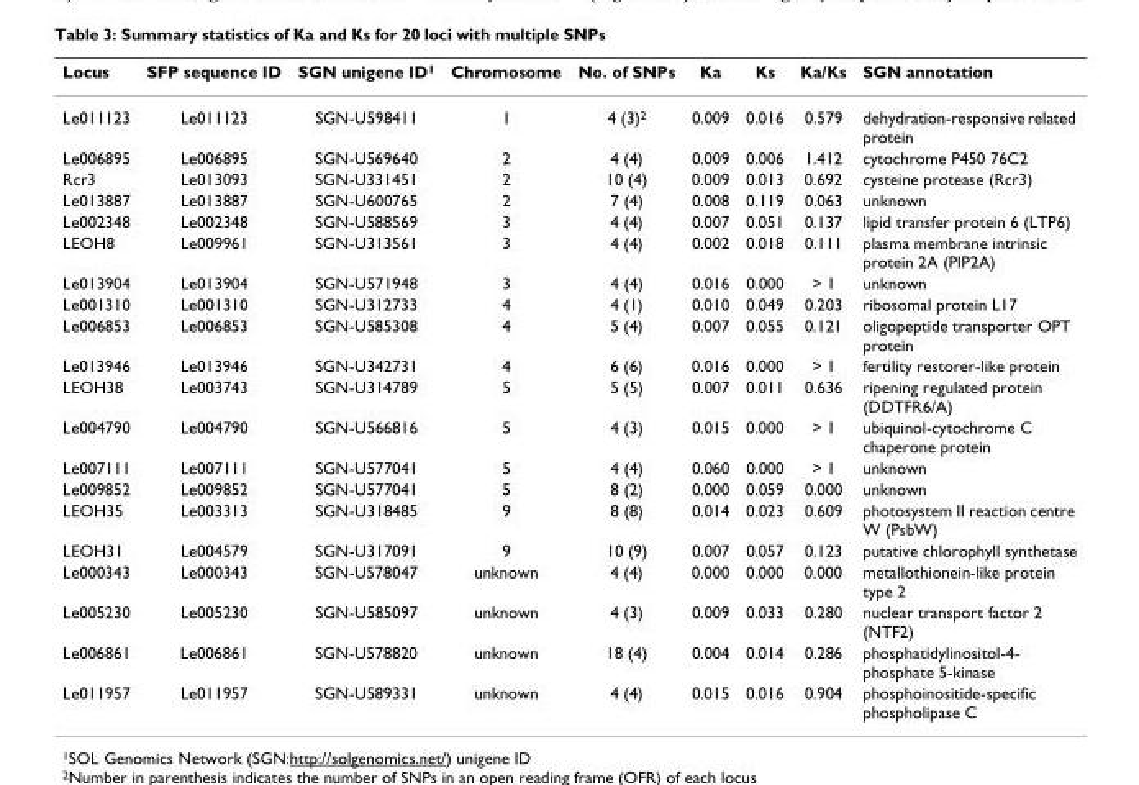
<table><thead><tr><td>Locus</td><td>SFP sequence ID</td><td>SGN unigene ID<sup>1</sup></td><td>Chromosome</td><td>No. of SNPs</td><td>Ka</td><td>Ks</td><td>Ka/Ks</td><td>SGN annotation</td></tr></thead><tbody><tr><td>Le011123</td><td>Le011123</td><td>SGN-U598411</td><td>1</td><td>4 (3)<sup>2</sup></td><td>0.009</td><td>0.016</td><td>0.579</td><td>dehydration-responsive related protein</td></tr><tr><td>Le006895</td><td>Le006895</td><td>SGN-U569640</td><td>2</td><td>4 (4)</td><td>0.009</td><td>0.006</td><td>1.412</td><td>cytochrome P450 76C2</td></tr><tr><td>Rcr3</td><td>Le013093</td><td>SGN-U331451</td><td>2</td><td>10 (4)</td><td>0.009</td><td>0.013</td><td>0.692</td><td>cysteine protease (Rcr3)</td></tr><tr><td>Le013887</td><td>Le013887</td><td>SGN-U600765</td><td>2</td><td>7 (4)</td><td>0.008</td><td>0.119</td><td>0.063</td><td>unknown</td></tr><tr><td>Le002348</td><td>Le002348</td><td>SGN-U588569</td><td>3</td><td>4 (4)</td><td>0.007</td><td>0.051</td><td>0.137</td><td>lipid transfer protein 6 (LTP6)</td></tr><tr><td>LEOH8</td><td>Le009961</td><td>SGN-U313561</td><td>3</td><td>4 (4)</td><td>0.002</td><td>0.018</td><td>0.111</td><td>plasma membrane intrinsic protein 2A (PIP2A)</td></tr><tr><td>Le013904</td><td>Le013904</td><td>SGN-U571948</td><td>3</td><td>4 (4)</td><td>0.016</td><td>0.000</td><td>&gt; 1</td><td>unknown</td></tr><tr><td>Le001310</td><td>Le001310</td><td>SGN-U312733</td><td>4</td><td>4 (1)</td><td>0.010</td><td>0.049</td><td>0.203</td><td>ribosomal protein L17</td></tr><tr><td>Le006853</td><td>Le006853</td><td>SGN-U585308</td><td>4</td><td>5 (4)</td><td>0.007</td><td>0.055</td><td>0.121</td><td>oligopeptide transporter OPT protein</td></tr><tr><td>Le013946</td><td>Le013946</td><td>SGN-U342731</td><td>4</td><td>6 (6)</td><td>0.016</td><td>0.000</td><td>&gt; 1</td><td>fertility restorer-like protein</td></tr><tr><td>LEOH38</td><td>Le003743</td><td>SGN-U314789</td><td>5</td><td>5 (5)</td><td>0.007</td><td>0.011</td><td>0.636</td><td>ripening regulated protein (DDTFR6/A)</td></tr><tr><td>Le004790</td><td>Le004790</td><td>SGN-U566816</td><td>5</td><td>4 (3)</td><td>0.015</td><td>0.000</td><td>&gt; 1</td><td>ubiquinol-cytochrome C chaperone protein</td></tr><tr><td>Le007111</td><td>Le007111</td><td>SGN-U577041</td><td>5</td><td>4 (4)</td><td>0.060</td><td>0.000</td><td>&gt; 1</td><td>unknown</td></tr><tr><td>Le009852</td><td>Le009852</td><td>SGN-U577041</td><td>5</td><td>8 (2)</td><td>0.000</td><td>0.059</td><td>0.000</td><td>unknown</td></tr><tr><td>LEOH35</td><td>Le003313</td><td>SGN-U318485</td><td>9</td><td>8 (8)</td><td>0.014</td><td>0.023</td><td>0.609</td><td>photosystem II reaction centre W (PsbW)</td></tr><tr><td>LEOH31</td><td>Le004579</td><td>SGN-U317091</td><td>9</td><td>10 (9)</td><td>0.007</td><td>0.057</td><td>0.123</td><td>putative chlorophyll synthetase</td></tr><tr><td>Le000343</td><td>Le000343</td><td>SGN-U578047</td><td>unknown</td><td>4 (4)</td><td>0.000</td><td>0.000</td><td>0.000</td><td>metallothionein-like protein type 2</td></tr><tr><td>Le005230</td><td>Le005230</td><td>SGN-U585097</td><td>unknown</td><td>4 (3)</td><td>0.009</td><td>0.033</td><td>0.280</td><td>nuclear transport factor 2 (NTF2)</td></tr><tr><td>Le006861</td><td>Le006861</td><td>SGN-U578820</td><td>unknown</td><td>18 (4)</td><td>0.004</td><td>0.014</td><td>0.286</td><td>phosphatidylinositol-4- phosphate 5-kinase</td></tr><tr><td>Le011957</td><td>Le011957</td><td>SGN-U589331</td><td>unknown</td><td>4 (4)</td><td>0.015</td><td>0.016</td><td>0.904</td><td>phosphoinositide-specific phospholipase C</td></tr></tbody></table>